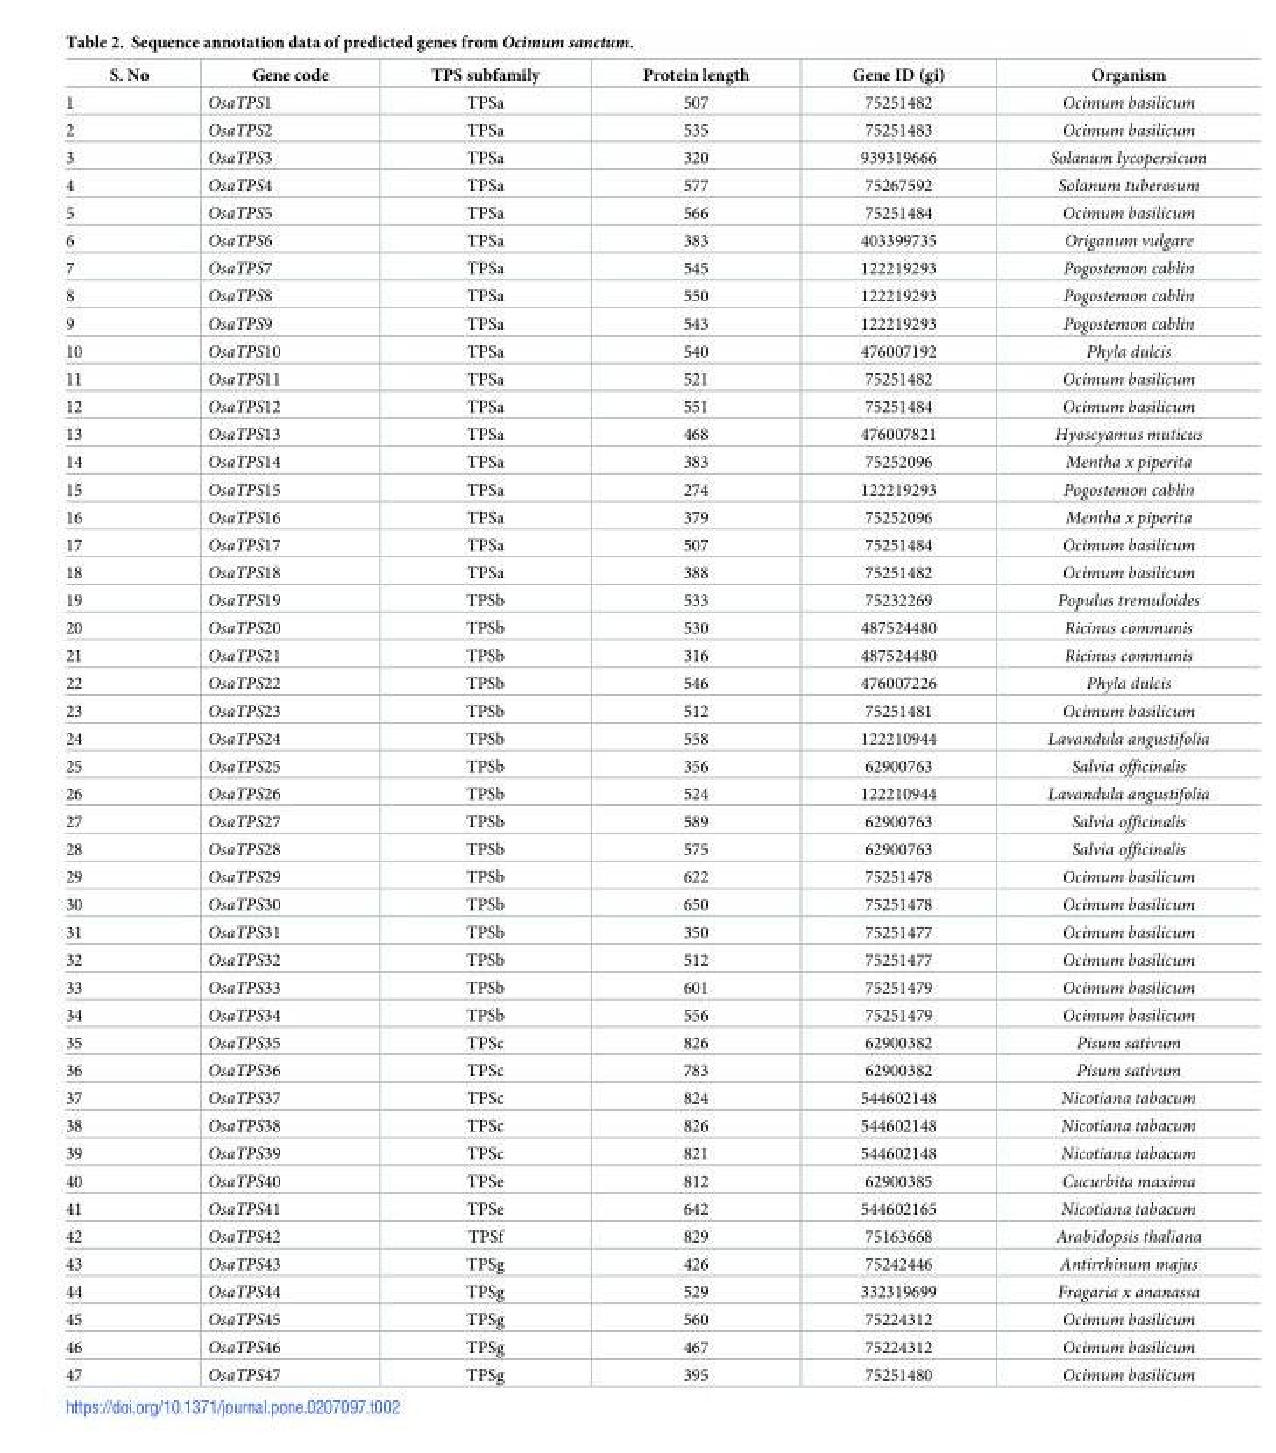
<table><thead><tr><td>S. No</td><td>Gene code</td><td>TPS subfamily</td><td>Protein length</td><td>Gene ID (gi)</td><td>Organism</td></tr></thead><tbody><tr><td>1</td><td>OsaTPS1</td><td>TPSa</td><td>507</td><td>75251482</td><td>Ocimum basilicum</td></tr><tr><td>2</td><td>OsaTPS2</td><td>TPSa</td><td>535</td><td>75251483</td><td>Ocimum basilicum</td></tr><tr><td>3</td><td>OsaTPS3</td><td>TPSa</td><td>320</td><td>939319666</td><td>Solanum lycopersicum</td></tr><tr><td>4</td><td>OsaTPS4</td><td>TPSa</td><td>577</td><td>75267592</td><td>Solanum tuberosum</td></tr><tr><td>5</td><td>OsaTPS5</td><td>TPSa</td><td>566</td><td>75251484</td><td>Ocimum basilicum</td></tr><tr><td>6</td><td>OsaTPS6</td><td>TPSa</td><td>383</td><td>403399735</td><td>Origanum vulgare</td></tr><tr><td>7</td><td>OsaTPS7</td><td>TPSa</td><td>545</td><td>122219293</td><td>Pogostemon cablin</td></tr><tr><td>8</td><td>OsaTPS8</td><td>TPSa</td><td>550</td><td>122219293</td><td>Pogostemon cablin</td></tr><tr><td>9</td><td>OsaTPS9</td><td>TPSa</td><td>543</td><td>122219293</td><td>Pogostemon cablin</td></tr><tr><td>10</td><td>OsaTPS10</td><td>TPSa</td><td>540</td><td>476007192</td><td>Phyla dulcis</td></tr><tr><td>11</td><td>OsaTPS11</td><td>TPSa</td><td>521</td><td>75251482</td><td>Ocimum basilicum</td></tr><tr><td>12</td><td>OsaTPS12</td><td>TPSa</td><td>551</td><td>75251484</td><td>Ocimum basilicum</td></tr><tr><td>13</td><td>OsaTPS13</td><td>TPSa</td><td>468</td><td>476007821</td><td>Hyoscyamus muticus</td></tr><tr><td>14</td><td>OsaTPS14</td><td>TPSa</td><td>383</td><td>75252096</td><td>Mentha x piperita</td></tr><tr><td>15</td><td>OsaTPS15</td><td>TPSa</td><td>274</td><td>122219293</td><td>Pogostemon cablin</td></tr><tr><td>16</td><td>OsaTPS16</td><td>TPSa</td><td>379</td><td>75252096</td><td>Mentha x piperita</td></tr><tr><td>17</td><td>OsaTPS17</td><td>TPSa</td><td>507</td><td>75251484</td><td>Ocimum basilicum</td></tr><tr><td>18</td><td>OsaTPS18</td><td>TPSa</td><td>388</td><td>75251482</td><td>Ocimum basilicum</td></tr><tr><td>19</td><td>OsaTPS19</td><td>TPSb</td><td>533</td><td>75232269</td><td>Populus tremuloides</td></tr><tr><td>20</td><td>OsaTPS20</td><td>TPSb</td><td>530</td><td>487524480</td><td>Ricinus communis</td></tr><tr><td>21</td><td>OsaTPS21</td><td>TPSb</td><td>316</td><td>487524480</td><td>Ricinus communis</td></tr><tr><td>22</td><td>OsaTPS22</td><td>TPSb</td><td>546</td><td>476007226</td><td>Phyla dulcis</td></tr><tr><td>23</td><td>OsaTPS23</td><td>TPSb</td><td>512</td><td>75251481</td><td>Ocimum basilicum</td></tr><tr><td>24</td><td>OsaTPS24</td><td>TPSb</td><td>558</td><td>122210944</td><td>Lavandula angustifolia</td></tr><tr><td>25</td><td>OsaTPS25</td><td>TPSb</td><td>356</td><td>62900763</td><td>Salvia officinalis</td></tr><tr><td>26</td><td>OsaTPS26</td><td>TPSb</td><td>524</td><td>122210944</td><td>Lavandula angustifolia</td></tr><tr><td>27</td><td>OsaTPS27</td><td>TPSb</td><td>589</td><td>62900763</td><td>Salvia officinalis</td></tr><tr><td>28</td><td>OsaTPS28</td><td>TPSb</td><td>575</td><td>62900763</td><td>Salvia officinalis</td></tr><tr><td>29</td><td>OsaTPS29</td><td>TPSb</td><td>622</td><td>75251478</td><td>Ocimum basilicum</td></tr><tr><td>30</td><td>OsaTPS30</td><td>TPSb</td><td>650</td><td>75251478</td><td>Ocimum basilicum</td></tr><tr><td>31</td><td>OsaTPS31</td><td>TPSb</td><td>350</td><td>75251477</td><td>Ocimum basilicum</td></tr><tr><td>32</td><td>OsaTPS32</td><td>TPSb</td><td>512</td><td>75251477</td><td>Ocimum basilicum</td></tr><tr><td>33</td><td>OsaTPS33</td><td>TPSb</td><td>601</td><td>75251479</td><td>Ocimum basilicum</td></tr><tr><td>34</td><td>OsaTPS34</td><td>TPSb</td><td>556</td><td>75251479</td><td>Ocimum basilicum</td></tr><tr><td>35</td><td>OsaTPS35</td><td>TPSc</td><td>826</td><td>62900382</td><td>Pisum sativum</td></tr><tr><td>36</td><td>OsaTPS36</td><td>TPSc</td><td>783</td><td>62900382</td><td>Pisum sativum</td></tr><tr><td>37</td><td>OsaTPS37</td><td>TPSc</td><td>824</td><td>544602148</td><td>Nicotiana tabacum</td></tr><tr><td>38</td><td>OsaTPS38</td><td>TPSc</td><td>826</td><td>544602148</td><td>Nicotiana tabacum</td></tr><tr><td>39</td><td>OsaTPS39</td><td>TPSc</td><td>821</td><td>544602148</td><td>Nicotiana tabacum</td></tr><tr><td>40</td><td>OsaTPS40</td><td>TPSe</td><td>812</td><td>62900385</td><td>Cucurbita maxima</td></tr><tr><td>41</td><td>OsaTPS41</td><td>TPSe</td><td>642</td><td>544602165</td><td>Nicotiana tabacum</td></tr><tr><td>42</td><td>OsaTPS42</td><td>TPSf</td><td>829</td><td>75163668</td><td>Arabidopsis thaliana</td></tr><tr><td>43</td><td>OsaTPS43</td><td>TPSg</td><td>426</td><td>75242446</td><td>Antirrhinum majus</td></tr><tr><td>44</td><td>OsaTPS44</td><td>TPSg</td><td>529</td><td>332319699</td><td>Fragaria x ananassa</td></tr><tr><td>45</td><td>OsaTPS45</td><td>TPSg</td><td>560</td><td>75224312</td><td>Ocimum basilicum</td></tr><tr><td>46</td><td>OsaTPS46</td><td>TPSg</td><td>467</td><td>75224312</td><td>Ocimum basilicum</td></tr><tr><td>47</td><td>OsaTPS47</td><td>TPSg</td><td>395</td><td>75251480</td><td>Ocimum basilicum</td></tr></tbody></table>